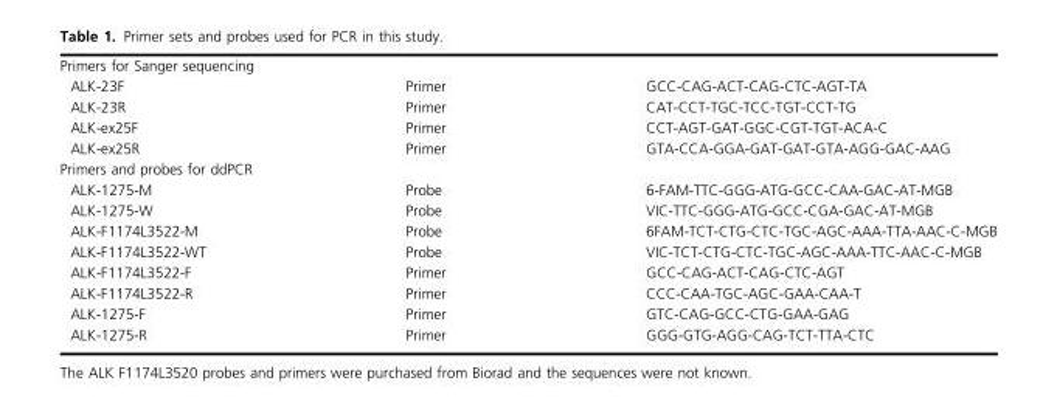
<table><tbody><tr><td colspan="3">Primers for Sanger sequencing</td></tr><tr><td>ALK-23F</td><td>Primer</td><td>GCC-CAG-ACT-CAG-CTC-AGT-TA</td></tr><tr><td>ALK-23R</td><td>Primer</td><td>CAT-CCT-TGC-TCC-TGT-CCT-TG</td></tr><tr><td>ALK-ex25F</td><td>Primer</td><td>CCT-AGT-GAT-GGC-CGT-TGT-ACA-C</td></tr><tr><td>ALK-ex25R</td><td>Primer</td><td>GTA-CCA-GGA-GAT-GAT-GTA-AGG-GAC-AAG</td></tr><tr><td colspan="3">Primers and probes for ddPCR</td></tr><tr><td>ALK-1275-M</td><td>Probe</td><td>6-FAM-TTC-GGG-ATG-GCC-CAA-GAC-AT-MGB</td></tr><tr><td>ALK-1275-W</td><td>Probe</td><td>VIC-TTC-GGG-ATG-GCC-CGA-GAC-AT-MGB</td></tr><tr><td>ALK-F1174L3522-M</td><td>Probe</td><td>6FAM-TCT-CTG-CTC-TGC-AGC-AAA-TTA-AAC-C-MGB</td></tr><tr><td>ALK-F1174L3522-WT</td><td>Probe</td><td>VIC-TCT-CTG-CTC-TGC-AGC-AAA-TTC-AAC-C-MGB</td></tr><tr><td>ALK-F1174L3522-F</td><td>Primer</td><td>GCC-CAG-ACT-CAG-CTC-AGT</td></tr><tr><td>ALK-F1174L3522-R</td><td>Primer</td><td>CCC-CAA-TGC-AGC-GAA-CAA-T</td></tr><tr><td>ALK-1275-F</td><td>Primer</td><td>GTC-CAG-GCC-CTG-GAA-GAG</td></tr><tr><td>ALK-1275-R</td><td>Primer</td><td>GGG-GTG-AGG-CAG-TCT-TTA-CTC</td></tr></tbody></table>